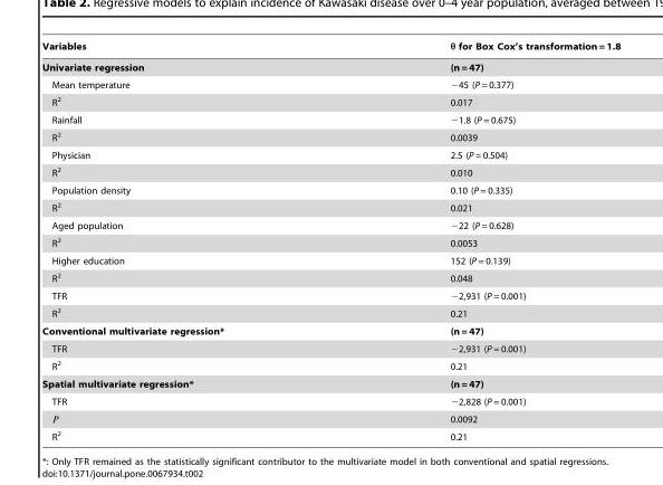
<table><thead><tr><td>Variables</td><td>θ for Box Cox’s transformation = 1.8</td></tr></thead><tbody><tr><td>Univariate regression</td><td>(n = 47)</td></tr><tr><td>Mean temperature</td><td>−45 (P = 0.377)</td></tr><tr><td>R<sup>2</sup></td><td>0.017</td></tr><tr><td>Rainfall</td><td>−1.8 (P = 0.675)</td></tr><tr><td>R<sup>2</sup></td><td>0.0039</td></tr><tr><td>Physician</td><td>2.5 (P = 0.504)</td></tr><tr><td>R<sup>2</sup></td><td>0.010</td></tr><tr><td>Population density</td><td>0.10 (P = 0.335)</td></tr><tr><td>R<sup>2</sup></td><td>0.021</td></tr><tr><td>Aged population</td><td>−22 (P = 0.628)</td></tr><tr><td>R<sup>2</sup></td><td>0.0053</td></tr><tr><td>Higher education</td><td>152 (P = 0.139)</td></tr><tr><td>R<sup>2</sup></td><td>0.048</td></tr><tr><td>TFR</td><td>−2,931 (P = 0.001)</td></tr><tr><td>R<sup>2</sup></td><td>0.21</td></tr><tr><td>Conventional multivariate regression*</td><td>(n = 47)</td></tr><tr><td>TFR</td><td>−2,931 (P = 0.001)</td></tr><tr><td>R<sup>2</sup></td><td>0.21</td></tr><tr><td>Spatial multivariate regression*</td><td>(n = 47)</td></tr><tr><td>TFR</td><td>−2,828 (P = 0.001)</td></tr><tr><td>Ρ</td><td>0.0092</td></tr><tr><td>R<sup>2</sup></td><td>0.21</td></tr></tbody></table>